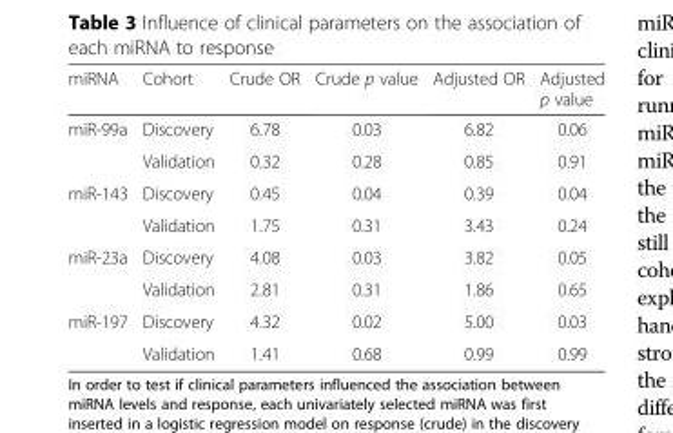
<table><thead><tr><td>miRNA</td><td>Cohort</td><td>Crude OR</td><td>Crude p value</td><td>Adjusted OR</td><td>Adjusted p value</td></tr></thead><tbody><tr><td rowspan="2">miR-99a</td><td>Discovery</td><td>6.78</td><td>0.03</td><td>6.82</td><td>0.06</td></tr><tr><td>Validation</td><td>0.32</td><td>0.28</td><td>0.85</td><td>0.91</td></tr><tr><td rowspan="2">miR-143</td><td>Discovery</td><td>0.45</td><td>0.04</td><td>0.39</td><td>0.04</td></tr><tr><td>Validation</td><td>1.75</td><td>0.31</td><td>3.43</td><td>0.24</td></tr><tr><td rowspan="2">miR-23a</td><td>Discovery</td><td>4.08</td><td>0.03</td><td>3.82</td><td>0.05</td></tr><tr><td>Validation</td><td>2.81</td><td>0.31</td><td>1.86</td><td>0.65</td></tr><tr><td rowspan="2">miR-197</td><td>Discovery</td><td>4.32</td><td>0.02</td><td>5.00</td><td>0.03</td></tr><tr><td>Validation</td><td>1.41</td><td>0.68</td><td>0.99</td><td>0.99</td></tr></tbody></table>